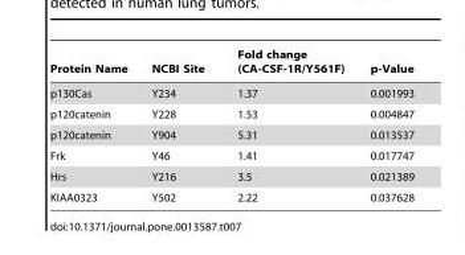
<table><thead><tr><td>Protein Name</td><td>NCBI Site</td><td>Fold change (CA-CSF-1R/Y561F)</td><td>p-Value</td></tr></thead><tbody><tr><td>p130Cas</td><td>Y234</td><td>1.37</td><td>0.001993</td></tr><tr><td>p120catenin</td><td>Y228</td><td>1.53</td><td>0.004847</td></tr><tr><td>p120catenin</td><td>Y904</td><td>5.31</td><td>0.013537</td></tr><tr><td>Frk</td><td>Y46</td><td>1.41</td><td>0.017747</td></tr><tr><td>Hrs</td><td>Y216</td><td>3.5</td><td>0.021389</td></tr><tr><td>KIAA0323</td><td>Y502</td><td>2.22</td><td>0.037628</td></tr></tbody></table>